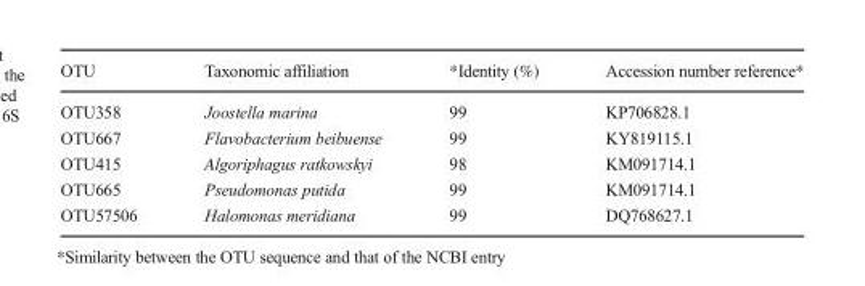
<table><thead><tr><td>OTU</td><td>Taxonomic affiliation</td><td>*Identity (%)</td><td>Accession number reference*</td></tr></thead><tbody><tr><td>OTU358</td><td>Joostella marina</td><td>99</td><td>KP706828.1</td></tr><tr><td>OTU667</td><td>Flavobacterium beibuense</td><td>99</td><td>KY819115.1</td></tr><tr><td>OTU415</td><td>Algoriphagus ratkowskyi</td><td>98</td><td>KM091714.1</td></tr><tr><td>OTU665</td><td>Pseudomonas putida</td><td>99</td><td>KM091714.1</td></tr><tr><td>OTU57506</td><td>Halomonas meridiana</td><td>99</td><td>DQ768627.1</td></tr></tbody></table>